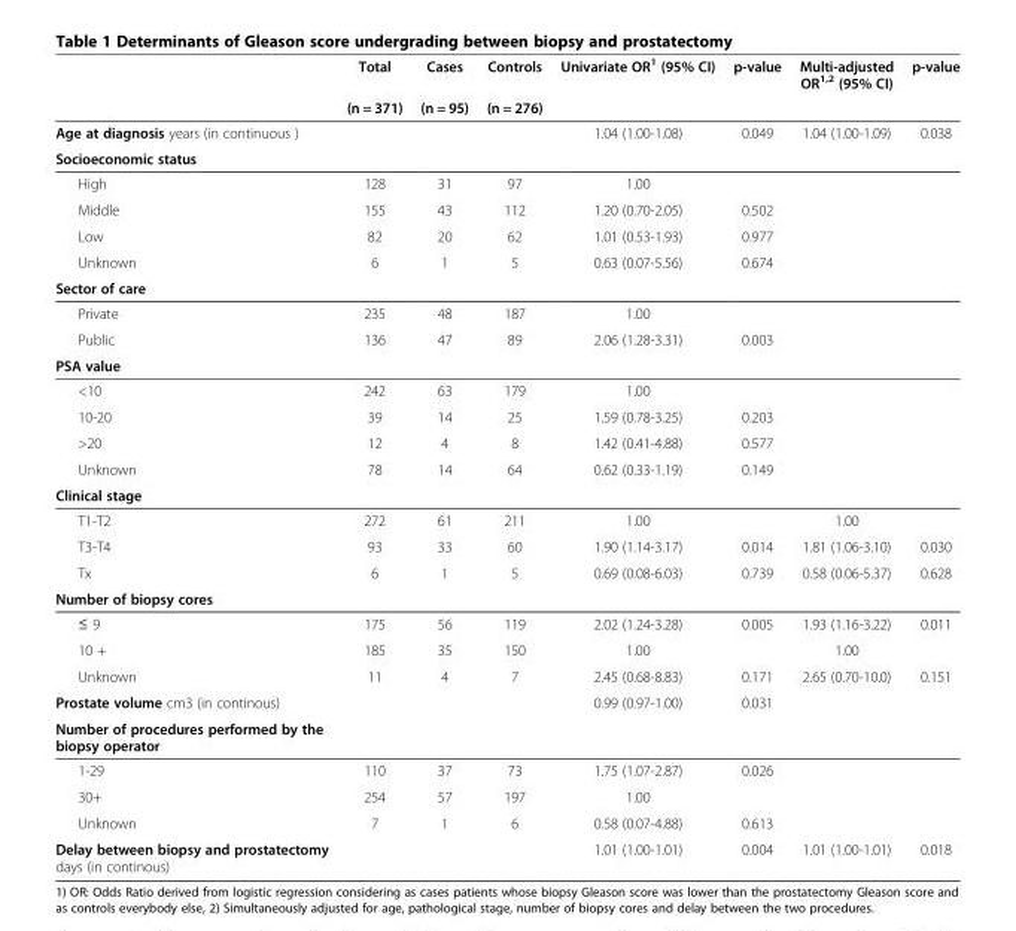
<table><thead><tr><td rowspan="2"></td><td rowspan="2">Total (n = 371)</td><td rowspan="2">Cases (n = 95)</td><td rowspan="2">Controls (n = 276)</td><td rowspan="2">Univariate OR<sup>1</sup> (95% CI)</td><td rowspan="2">p-value</td><td rowspan="2">Multi-adjusted OR<sup>1,2</sup> (95% CI)</td><td rowspan="2">p-value</td></tr><tr></tr></thead><tbody><tr><td>Age at diagnosis years (in continuous )</td><td></td><td></td><td></td><td>1.04 (1.00-1.08)</td><td>0.049</td><td>1.04 (1.00-1.09)</td><td>0.038</td></tr><tr><td colspan="8">Socioeconomic status</td></tr><tr><td>High</td><td>128</td><td>31</td><td>97</td><td>1.00</td><td></td><td></td><td></td></tr><tr><td>Middle</td><td>155</td><td>43</td><td>112</td><td>1.20 (0.70-2.05)</td><td>0.502</td><td></td><td></td></tr><tr><td>Low</td><td>82</td><td>20</td><td>62</td><td>1.01 (0.53-1.93)</td><td>0.977</td><td></td><td></td></tr><tr><td>Unknown</td><td>6</td><td>1</td><td>5</td><td>0.63 (0.07-5.56)</td><td>0.674</td><td></td><td></td></tr><tr><td colspan="8">Sector of care</td></tr><tr><td>Private</td><td>235</td><td>48</td><td>187</td><td>1.00</td><td></td><td></td><td></td></tr><tr><td>Public</td><td>136</td><td>47</td><td>89</td><td>2.06 (1.28-3.31)</td><td>0.003</td><td></td><td></td></tr><tr><td colspan="8">PSA value</td></tr><tr><td>&lt;10</td><td>242</td><td>63</td><td>179</td><td>1.00</td><td></td><td></td><td></td></tr><tr><td>10-20</td><td>39</td><td>14</td><td>25</td><td>1.59 (0.78-3.25)</td><td>0.203</td><td></td><td></td></tr><tr><td>&gt;20</td><td>12</td><td>4</td><td>8</td><td>1.42 (0.41-4.88)</td><td>0.577</td><td></td><td></td></tr><tr><td>Unknown</td><td>78</td><td>14</td><td>64</td><td>0.62 (0.33-1.19)</td><td>0.149</td><td></td><td></td></tr><tr><td colspan="8">Clinical stage</td></tr><tr><td>T1-T2</td><td>272</td><td>61</td><td>211</td><td>1.00</td><td></td><td>1.00</td><td></td></tr><tr><td>T3-T4</td><td>93</td><td>33</td><td>60</td><td>1.90 (1.14-3.17)</td><td>0.014</td><td>1.81 (1.06-3.10)</td><td>0.030</td></tr><tr><td>Tx</td><td>6</td><td>1</td><td>5</td><td>0.69 (0.08-6.03)</td><td>0.739</td><td>0.58 (0.06-5.37)</td><td>0.628</td></tr><tr><td colspan="8">Number of biopsy cores</td></tr><tr><td>≤ 9</td><td>175</td><td>56</td><td>119</td><td>2.02 (1.24-3.28)</td><td>0.005</td><td>1.93 (1.16-3.22)</td><td>0.011</td></tr><tr><td>10 +</td><td>185</td><td>35</td><td>150</td><td>1.00</td><td></td><td>1.00</td><td></td></tr><tr><td>Unknown</td><td>11</td><td>4</td><td>7</td><td>2.45 (0.68-8.83)</td><td>0.171</td><td>2.65 (0.70-10.0)</td><td>0.151</td></tr><tr><td>Prostate volume cm3 (in continous)</td><td></td><td></td><td></td><td>0.99 (0.97-1.00)</td><td>0.031</td><td></td><td></td></tr><tr><td colspan="8">Number of procedures performed by the biopsy operator</td></tr><tr><td>1-29</td><td>110</td><td>37</td><td>73</td><td>1.75 (1.07-2.87)</td><td>0.026</td><td></td><td></td></tr><tr><td>30+</td><td>254</td><td>57</td><td>197</td><td>1.00</td><td></td><td></td><td></td></tr><tr><td>Unknown</td><td>7</td><td>1</td><td>6</td><td>0.58 (0.07-4.88)</td><td>0.613</td><td></td><td></td></tr><tr><td>Delay between biopsy and prostatectomy days (in continous)</td><td></td><td></td><td></td><td>1.01 (1.00-1.01)</td><td>0.004</td><td>1.01 (1.00-1.01)</td><td>0.018</td></tr></tbody></table>